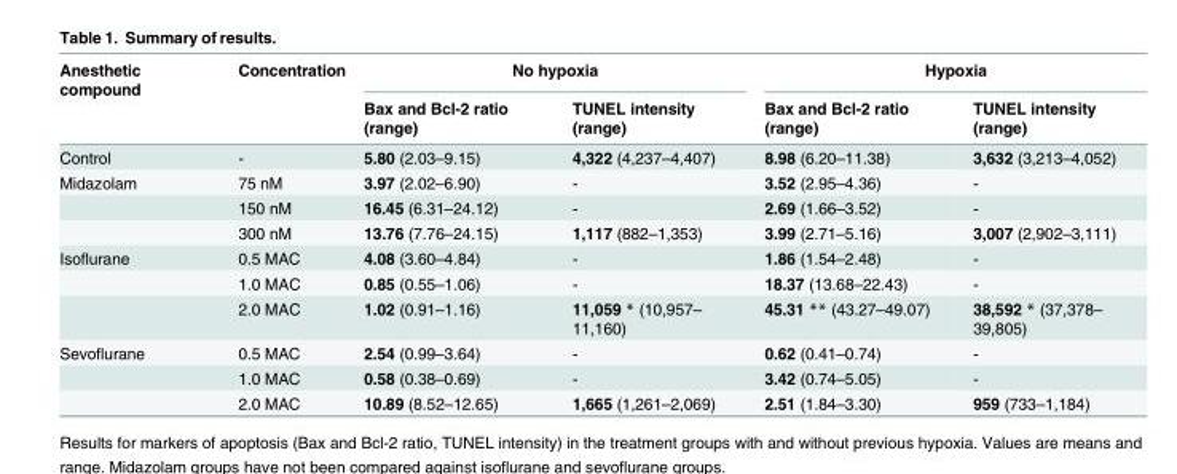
<table><thead><tr><td rowspan="2">Anesthetic compound</td><td rowspan="2">Concentration</td><td colspan="2">No hypoxia</td><td colspan="2">Hypoxia</td></tr><tr><td>Bax and Bcl-2 ratio (range)</td><td>TUNEL intensity (range)</td><td>Bax and Bcl-2 ratio (range)</td><td>TUNEL intensity (range)</td></tr></thead><tbody><tr><td>Control</td><td>-</td><td>5.80 (2.03–9.15)</td><td>4,322 (4,237–4,407)</td><td>8.98 (6.20–11.38)</td><td>3,632 (3,213–4,052)</td></tr><tr><td rowspan="3">Midazolam</td><td>75 nM</td><td>3.97 (2.02–6.90)</td><td>-</td><td>3.52 (2.95–4.36)</td><td>-</td></tr><tr><td>150 nM</td><td>16.45 (6.31–24.12)</td><td>-</td><td>2.69 (1.66–3.52)</td><td>-</td></tr><tr><td>300 nM</td><td>13.76 (7.76–24.15)</td><td>1,117 (882–1,353)</td><td>3.99 (2.71–5.16)</td><td>3,007 (2,902–3,111)</td></tr><tr><td rowspan="3">Isoflurane</td><td>0.5 MAC</td><td>4.08 (3.60–4.84)</td><td>-</td><td>1.86 (1.54–2.48)</td><td>-</td></tr><tr><td>1.0 MAC</td><td>0.85 (0.55–1.06)</td><td>-</td><td>18.37 (13.68–22.43)</td><td>-</td></tr><tr><td>2.0 MAC</td><td>1.02 (0.91–1.16)</td><td>11,059 * (10,957– 11,160)</td><td>45.31 ** (43.27–49.07)</td><td>38,592 * (37,378– 39,805)</td></tr><tr><td rowspan="3">Sevoflurane</td><td>0.5 MAC</td><td>2.54 (0.99–3.64)</td><td>-</td><td>0.62 (0.41–0.74)</td><td>-</td></tr><tr><td>1.0 MAC</td><td>0.58 (0.38–0.69)</td><td>-</td><td>3.42 (0.74–5.05)</td><td>-</td></tr><tr><td>2.0 MAC</td><td>10.89 (8.52–12.65)</td><td>1,665 (1,261–2,069)</td><td>2.51 (1.84–3.30)</td><td>959 (733–1,184)</td></tr></tbody></table>